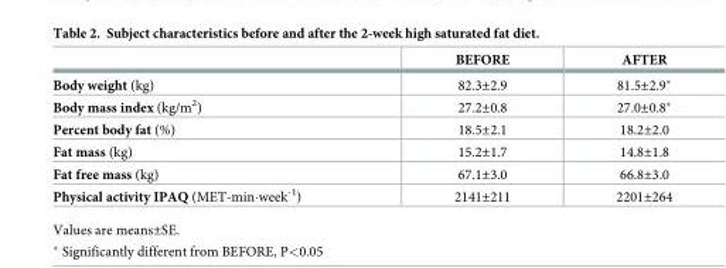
<table><thead><tr><td></td><td>BEFORE</td><td>AFTER</td></tr></thead><tbody><tr><td>Body weight (kg)</td><td>82.3±2.9</td><td>81.5±2.9*</td></tr><tr><td>Body mass index (kg/m<sup>2</sup>)</td><td>27.2±0.8</td><td>27.0±0.8*</td></tr><tr><td>Percent body fat (%)</td><td>18.5±2.1</td><td>18.2±2.0</td></tr><tr><td>Fat mass (kg)</td><td>15.2±1.7</td><td>14.8±1.8</td></tr><tr><td>Fat free mass (kg)</td><td>67.1±3.0</td><td>66.8±3.0</td></tr><tr><td>Physical activity IPAQ (MET-min·week<sup>-1</sup>)</td><td>2141±211</td><td>2201±264</td></tr></tbody></table>